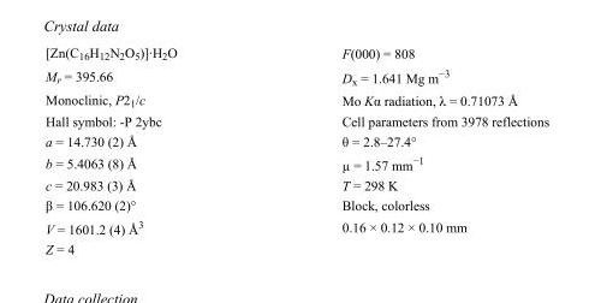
<table><tbody><tr><td>[Zn(C<sub>16</sub>H<sub>12</sub>N<sub>2</sub>O<sub>5</sub>)]·H<sub>2</sub>O</td><td>F(000) = 808</td></tr><tr><td>M<sub>r</sub> = 395.66</td><td>D<sub>x</sub> = 1.641 Mg m<sup>−3</sup></td></tr><tr><td>Monoclinic, P2<sub>1</sub>/c</td><td>Mo Kα radiation, λ = 0.71073 Å</td></tr><tr><td>Hall symbol: -P 2ybc</td><td>Cell parameters from 3978 reflections</td></tr><tr><td>a = 14.730 (2) Å</td><td>θ = 2.8–27.4°</td></tr><tr><td>b = 5.4063 (8) Å</td><td>µ = 1.57 mm<sup>−1</sup></td></tr><tr><td>c = 20.983 (3) Å</td><td>T = 298 K</td></tr><tr><td>β = 106.620 (2)°</td><td>Block, colorless</td></tr><tr><td>V = 1601.2 (4) Å<sup>3</sup></td><td>0.16 × 0.12 × 0.10 mm</td></tr><tr><td>Z = 4</td><td></td></tr></tbody></table>